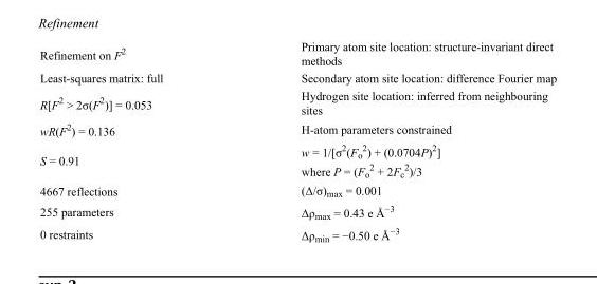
<table><tbody><tr><td>Refinement on F<sup>2</sup></td><td>Primary atom site location: structure-invariant direct methods</td></tr><tr><td>Least-squares matrix: full</td><td>Secondary atom site location: difference Fourier map</td></tr><tr><td>R[F<sup>2</sup> &gt; 2σ(F<sup>2</sup>)] = 0.053</td><td>Hydrogen site location: inferred from neighbouring sites</td></tr><tr><td>wR(F<sup>2</sup>) = 0.136</td><td>H-atom parameters constrained</td></tr><tr><td>S = 0.91</td><td>w = 1/[σ<sup>2</sup>(F<sub>o</sub> <sup>2</sup>) + (0.0704P)<sup>2</sup>] where P = (F<sub>o</sub> <sup>2</sup> + 2F<sub>c</sub> <sup>2</sup>)/3</td></tr><tr><td>4667 reflections</td><td>(Δ/σ)<sub>max</sub> = 0.001</td></tr><tr><td>255 parameters</td><td>Δρ<sub>max</sub> = 0.43 e Å<sup>−3</sup></td></tr><tr><td>0 restraints</td><td>Δρ<sub>min</sub> = −0.50 e Å<sup>−3</sup></td></tr></tbody></table>